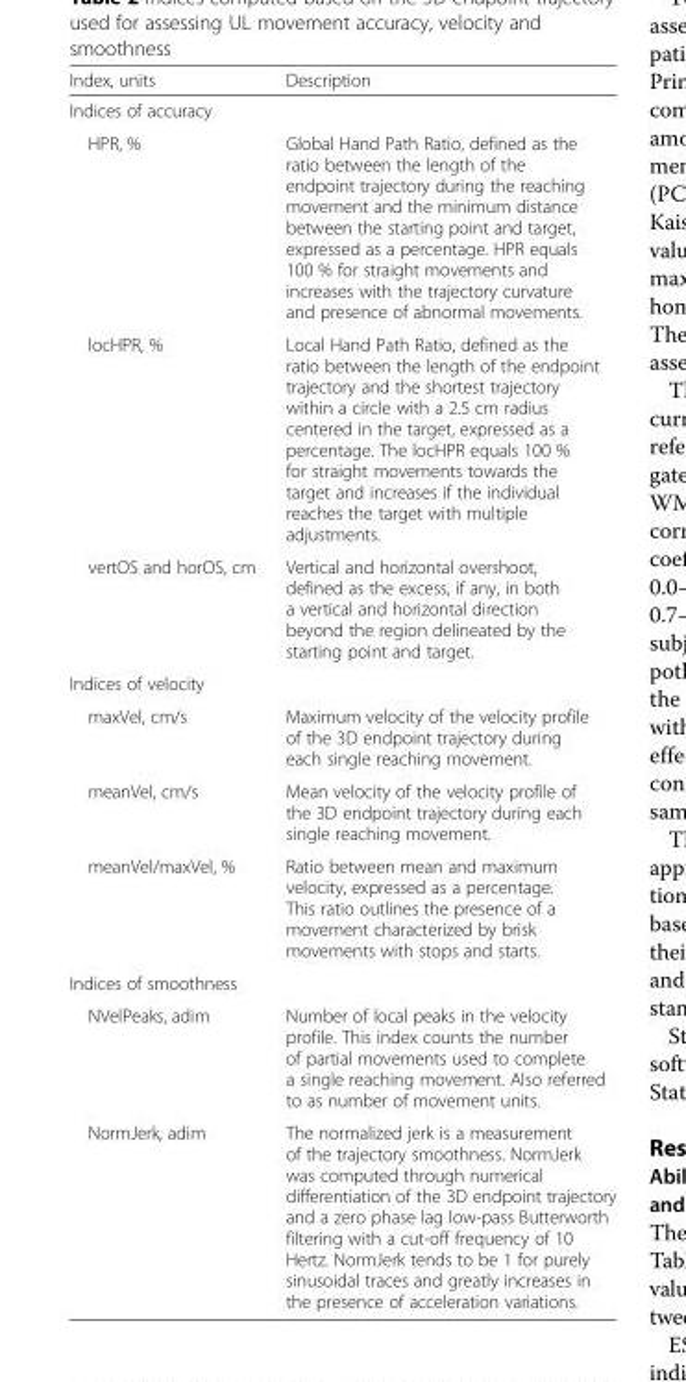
<table><thead><tr><td>Index, units</td><td>Description</td></tr></thead><tbody><tr><td colspan="2">Indices of accuracy</td></tr><tr><td>HPR, %</td><td>Global Hand Path Ratio, defined as the ratio between the length of the endpoint trajectory during the reaching movement and the minimum distance between the starting point and target, expressed as a percentage. HPR equals 100 % for straight movements and increases with the trajectory curvature and presence of abnormal movements.</td></tr><tr><td>locHPR, %</td><td>Local Hand Path Ratio, defined as the ratio between the length of the endpoint trajectory and the shortest trajectory within a circle with a 2.5 cm radius centered in the target, expressed as a percentage. The locHPR equals 100 % for straight movements towards the target and increases if the individual reaches the target with multiple adjustments.</td></tr><tr><td>vertOS and horOS, cm</td><td>Vertical and horizontal overshoot, defined as the excess, if any, in both a vertical and horizontal direction beyond the region delineated by the starting point and target.</td></tr><tr><td colspan="2">Indices of velocity</td></tr><tr><td>maxVel, cm/s</td><td>Maximum velocity of the velocity profile of the 3D endpoint trajectory during each single reaching movement.</td></tr><tr><td>meanVel, cm/s</td><td>Mean velocity of the velocity profile of the 3D endpoint trajectory during each single reaching movement.</td></tr><tr><td>meanVel/maxVel, %</td><td>Ratio between mean and maximum velocity, expressed as a percentage. This ratio outlines the presence of a movement characterized by brisk movements with stops and starts.</td></tr><tr><td colspan="2">Indices of smoothness</td></tr><tr><td>NVelPeaks, adim</td><td>Number of local peaks in the velocity profile. This index counts the number of partial movements used to complete a single reaching movement. Also referred to as number of movement units.</td></tr><tr><td>NormJerk, adim</td><td>The normalized jerk is a measurement of the trajectory smoothness. NormJerk was computed through numerical differentiation of the 3D endpoint trajectory and a zero phase lag low-pass Butterworth filtering with a cut-off frequency of 10 Hertz. NormJerk tends to be 1 for purely sinusoidal traces and greatly increases in the presence of acceleration variations.</td></tr></tbody></table>